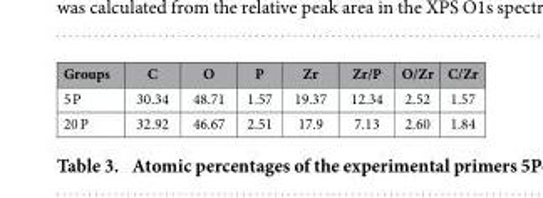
<table><thead><tr><td>Groups</td><td>C</td><td>O</td><td>P</td><td>Zr</td><td>Zr/P</td><td>O/Zr</td><td>C/Zr</td></tr></thead><tbody><tr><td>5 P</td><td>30.34</td><td>48.71</td><td>1.57</td><td>19.37</td><td>12.34</td><td>2.52</td><td>1.57</td></tr><tr><td>20 P</td><td>32.92</td><td>46.67</td><td>2.51</td><td>17.9</td><td>7.13</td><td>2.60</td><td>1.84</td></tr></tbody></table>